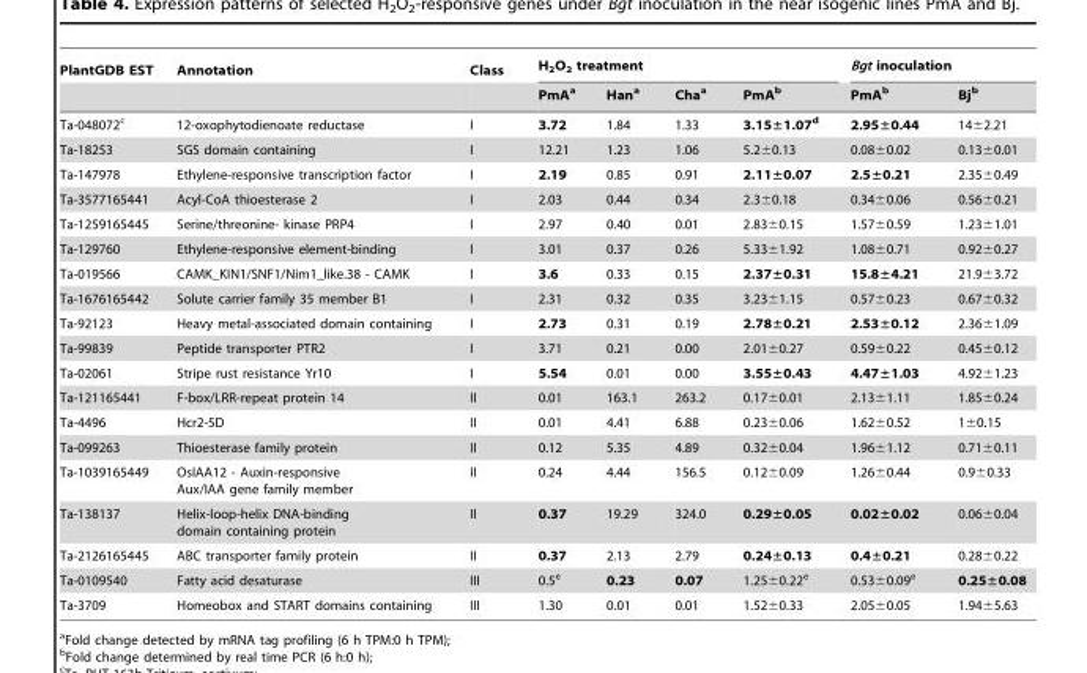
<table><thead><tr><td rowspan="2">PlantGDB EST</td><td rowspan="2">Annotation</td><td rowspan="2">Class</td><td colspan="4">H<sub>2</sub>O<sub>2</sub> treatment</td><td colspan="2">Bgt inoculation</td></tr><tr><td>PmA<sup>a</sup></td><td>Han<sup>a</sup></td><td>Cha<sup>a</sup></td><td>PmA<sup>b</sup></td><td>PmA<sup>b</sup></td><td>Bj<sup>b</sup></td></tr></thead><tbody><tr><td>Ta-048072<sup>c</sup></td><td>12-oxophytodienoate reductase</td><td>I</td><td>3.72</td><td>1.84</td><td>1.33</td><td>3.15±1.07d</td><td>2.95±0.44</td><td>14±2.21</td></tr><tr><td>Ta-18253</td><td>SGS domain containing</td><td>I</td><td>12.21</td><td>1.23</td><td>1.06</td><td>5.2±0.13</td><td>0.08±0.02</td><td>0.13±0.01</td></tr><tr><td>Ta-147978</td><td>Ethylene-responsive transcription factor</td><td>I</td><td>2.19</td><td>0.85</td><td>0.91</td><td>2.11±0.07</td><td>2.5±0.21</td><td>2.35±0.49</td></tr><tr><td>Ta-3577165441</td><td>Acyl-CoA thioesterase 2</td><td>I</td><td>2.03</td><td>0.44</td><td>0.34</td><td>2.3±0.18</td><td>0.34±0.06</td><td>0.56±0.21</td></tr><tr><td>Ta-1259165445</td><td>Serine/threonine- kinase PRP4</td><td>I</td><td>2.97</td><td>0.40</td><td>0.01</td><td>2.83±0.15</td><td>1.57±0.59</td><td>1.23±1.01</td></tr><tr><td>Ta-129760</td><td>Ethylene-responsive element-binding</td><td>I</td><td>3.01</td><td>0.37</td><td>0.26</td><td>5.33±1.92</td><td>1.08±0.71</td><td>0.92±0.27</td></tr><tr><td>Ta-019566</td><td>CAMK_KIN1/SNF1/Nim1_like.38 - CAMK</td><td>I</td><td>3.6</td><td>0.33</td><td>0.15</td><td>2.37±0.31</td><td>15.8±4.21</td><td>21.9±3.72</td></tr><tr><td>Ta-1676165442</td><td>Solute carrier family 35 member B1</td><td>I</td><td>2.31</td><td>0.32</td><td>0.35</td><td>3.23±1.15</td><td>0.57±0.23</td><td>0.67±0.32</td></tr><tr><td>Ta-92123</td><td>Heavy metal-associated domain containing</td><td>I</td><td>2.73</td><td>0.31</td><td>0.19</td><td>2.78±0.21</td><td>2.53±0.12</td><td>2.36±1.09</td></tr><tr><td>Ta-99839</td><td>Peptide transporter PTR2</td><td>I</td><td>3.71</td><td>0.21</td><td>0.00</td><td>2.01±0.27</td><td>0.59±0.22</td><td>0.45±0.12</td></tr><tr><td>Ta-02061</td><td>Stripe rust resistance Yr10</td><td>I</td><td>5.54</td><td>0.01</td><td>0.00</td><td>3.55±0.43</td><td>4.47±1.03</td><td>4.92±1.23</td></tr><tr><td>Ta-121165441</td><td>F-box/LRR-repeat protein 14</td><td>II</td><td>0.01</td><td>163.1</td><td>263.2</td><td>0.17±0.01</td><td>2.13±1.11</td><td>1.85±0.24</td></tr><tr><td>Ta-4496</td><td>Hcr2-5D</td><td>II</td><td>0.01</td><td>4.41</td><td>6.88</td><td>0.23±0.06</td><td>1.62±0.52</td><td>1±0.15</td></tr><tr><td>Ta-099263</td><td>Thioesterase family protein</td><td>II</td><td>0.12</td><td>5.35</td><td>4.89</td><td>0.32±0.04</td><td>1.96±1.12</td><td>0.71±0.11</td></tr><tr><td>Ta-1039165449</td><td>OsIAA12 - Auxin-responsive Aux/IAA gene family member</td><td>II</td><td>0.24</td><td>4.44</td><td>156.5</td><td>0.12±0.09</td><td>1.26±0.44</td><td>0.9±0.33</td></tr><tr><td>Ta-138137</td><td>Helix-loop-helix DNA-binding domain containing protein</td><td>II</td><td>0.37</td><td>19.29</td><td>324.0</td><td>0.29±0.05</td><td>0.02±0.02</td><td>0.06±0.04</td></tr><tr><td>Ta-2126165445</td><td>ABC transporter family protein</td><td>II</td><td>0.37</td><td>2.13</td><td>2.79</td><td>0.24±0.13</td><td>0.4±0.21</td><td>0.28±0.22</td></tr><tr><td>Ta-0109540</td><td>Fatty acid desaturase</td><td>III</td><td>0.5<sup>e</sup></td><td>0.23</td><td>0.07</td><td>1.25±0.22<sup>e</sup></td><td>0.53±0.09<sup>e</sup></td><td>0.25±0.08</td></tr><tr><td>Ta-3709</td><td>Homeobox and START domains containing</td><td>III</td><td>1.30</td><td>0.01</td><td>0.01</td><td>1.52±0.33</td><td>2.05±0.05</td><td>1.94±5.63</td></tr></tbody></table>